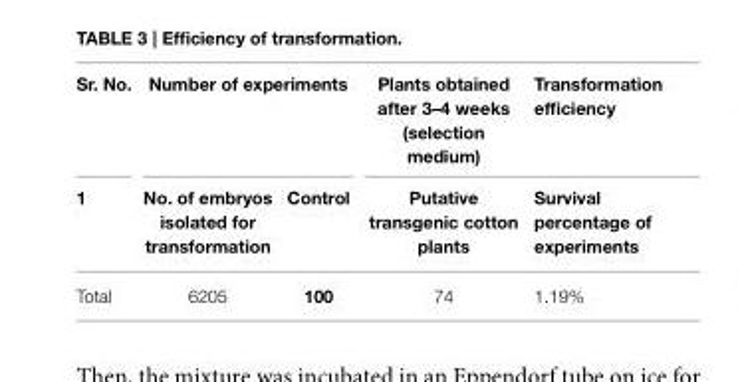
<table><thead><tr><td rowspan="2">Sr. No. 1</td><td colspan="2">Number of experiments</td><td rowspan="2">Plants obtained after 3–4 weeks (selection medium) Putative transgenic cotton plants</td><td rowspan="2">Transformation efficiency Survival percentage of experiments</td></tr><tr><td>No. of embryos isolated for transformation</td><td>Control</td></tr></thead><tbody><tr><td>Total</td><td>6205</td><td>100</td><td>74</td><td>1.19%</td></tr></tbody></table>